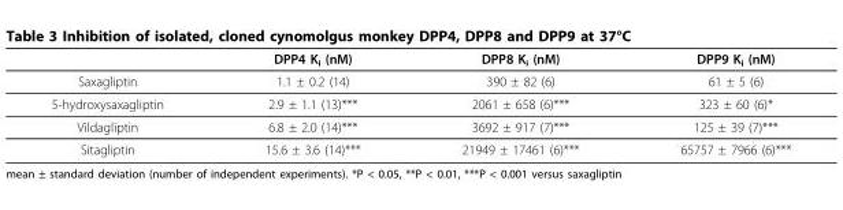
<table><thead><tr><td></td><td>DPP4 K<sub>i</sub> (nM)</td><td>DPP8 K<sub>i</sub> (nM)</td><td>DPP9 K<sub>i</sub> (nM)</td></tr></thead><tbody><tr><td>Saxagliptin</td><td>1.1 ± 0.2 (14)</td><td>390 ± 82 (6)</td><td>61 ± 5 (6)</td></tr><tr><td>5-hydroxysaxagliptin</td><td>2.9 ± 1.1 (13)***</td><td>2061 ± 658 (6)***</td><td>323 ± 60 (6)*</td></tr><tr><td>Vildagliptin</td><td>6.8 ± 2.0 (14)***</td><td>3692 ± 917 (7)***</td><td>125 ± 39 (7)***</td></tr><tr><td>Sitagliptin</td><td>15.6 ± 3.6 (14)***</td><td>21949 ± 17461 (6)***</td><td>65757 ± 7966 (6)***</td></tr></tbody></table>